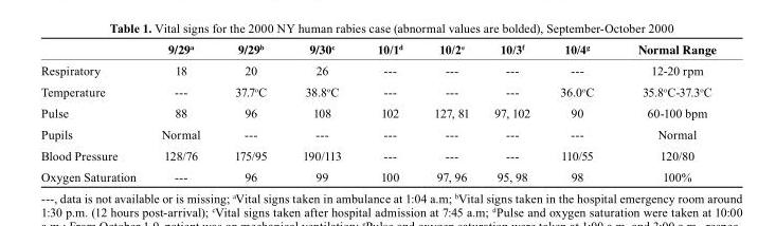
<table><thead><tr><td></td><td>9/29<sup>a</sup></td><td>9/29<sup>b</sup></td><td>9/30<sup>c</sup></td><td>10/1<sup>d</sup></td><td>10/2<sup>e</sup></td><td>10/3<sup>f</sup></td><td>10/4<sup>g</sup></td><td>Normal range</td></tr></thead><tbody><tr><td>Respiratory</td><td>18</td><td>20</td><td>26</td><td>---</td><td>---</td><td>---</td><td>---</td><td>12-20 rpm</td></tr><tr><td>Temperature</td><td>---</td><td>37.7°C</td><td>38.8°C</td><td>---</td><td>---</td><td>---</td><td>36.0°C</td><td>35.8°C-37.3°C</td></tr><tr><td>Pulse</td><td>88</td><td>96</td><td>108</td><td>102</td><td>127, 81</td><td>97, 102</td><td>90</td><td>60-100 bpm</td></tr><tr><td>Pupils</td><td>Normal</td><td>---</td><td>---</td><td>---</td><td>---</td><td>---</td><td>---</td><td>Normal</td></tr><tr><td>Blood Pressure</td><td>128/76</td><td>175/95</td><td>190/113</td><td>---</td><td>---</td><td>---</td><td>110/55</td><td>120/80</td></tr><tr><td>Oxygen Saturation</td><td>---</td><td>96</td><td>99</td><td>100</td><td>97, 96</td><td>95, 98</td><td>98</td><td>100%</td></tr></tbody></table>